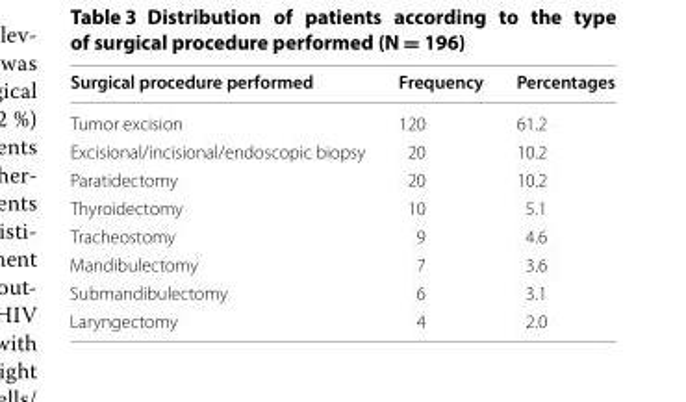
<table><thead><tr><td>Surgical procedure performed</td><td>Frequency</td><td>Percentages</td></tr></thead><tbody><tr><td>Tumor excision</td><td>120</td><td>61.2</td></tr><tr><td>Excisional/incisional/endoscopic biopsy</td><td>20</td><td>10.2</td></tr><tr><td>Paratidectomy</td><td>20</td><td>10.2</td></tr><tr><td>Thyroidectomy</td><td>10</td><td>5.1</td></tr><tr><td>Tracheostomy</td><td>9</td><td>4.6</td></tr><tr><td>Mandibulectomy</td><td>7</td><td>3.6</td></tr><tr><td>Submandibulectomy</td><td>6</td><td>3.1</td></tr><tr><td>Laryngectomy</td><td>4</td><td>2.0</td></tr></tbody></table>